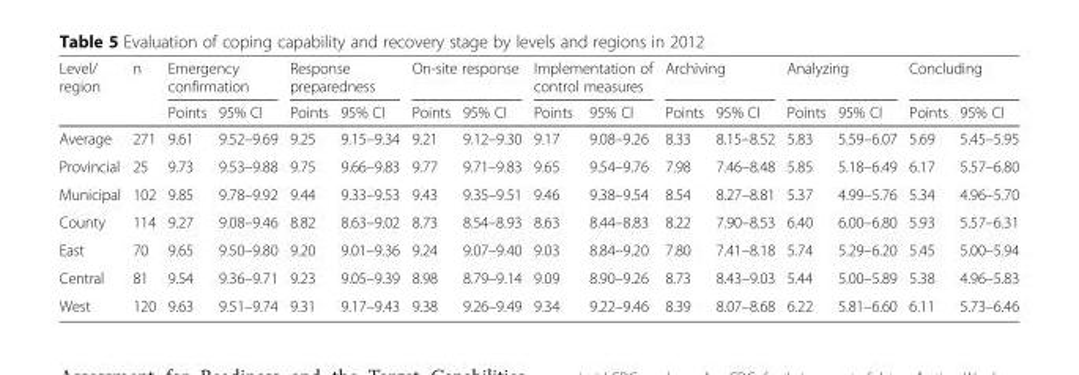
<table><thead><tr><td rowspan="2">Level/ region</td><td rowspan="2">n</td><td colspan="2">Emergency confirmation</td><td colspan="2">Response preparedness</td><td colspan="2">On-site response</td><td colspan="2">Implementation of control measures</td><td colspan="2">Archiving</td><td colspan="2">Analyzing</td><td colspan="2">Concluding</td></tr><tr><td>Points</td><td>95% CI</td><td>Points</td><td>95% CI</td><td>Points</td><td>95% CI</td><td>Points</td><td>95% CI</td><td>Points</td><td>95% CI</td><td>Points</td><td>95% CI</td><td>Points</td><td>95% CI</td></tr></thead><tbody><tr><td>Average</td><td>271</td><td>9.61</td><td>9.52–9.69</td><td>9.25</td><td>9.15–9.34</td><td>9.21</td><td>9.12–9.30</td><td>9.17</td><td>9.08–9.26</td><td>8.33</td><td>8.15–8.52</td><td>5.83</td><td>5.59–6.07</td><td>5.69</td><td>5.45–5.95</td></tr><tr><td>Provincial</td><td>25</td><td>9.73</td><td>9.53–9.88</td><td>9.75</td><td>9.66–9.83</td><td>9.77</td><td>9.71–9.83</td><td>9.65</td><td>9.54–9.76</td><td>7.98</td><td>7.46–8.48</td><td>5.85</td><td>5.18–6.49</td><td>6.17</td><td>5.57–6.80</td></tr><tr><td>Municipal</td><td>102</td><td>9.85</td><td>9.78–9.92</td><td>9.44</td><td>9.33–9.53</td><td>9.43</td><td>9.35–9.51</td><td>9.46</td><td>9.38–9.54</td><td>8.54</td><td>8.27–8.81</td><td>5.37</td><td>4.99–5.76</td><td>5.34</td><td>4.96–5.70</td></tr><tr><td>County</td><td>114</td><td>9.27</td><td>9.08–9.46</td><td>8.82</td><td>8.63–9.02</td><td>8.73</td><td>8.54–8.93</td><td>8.63</td><td>8.44–8.83</td><td>8.22</td><td>7.90–8.53</td><td>6.40</td><td>6.00–6.80</td><td>5.93</td><td>5.57–6.31</td></tr><tr><td>East</td><td>70</td><td>9.65</td><td>9.50–9.80</td><td>9.20</td><td>9.01–9.36</td><td>9.24</td><td>9.07–9.40</td><td>9.03</td><td>8.84–9.20</td><td>7.80</td><td>7.41–8.18</td><td>5.74</td><td>5.29–6.20</td><td>5.45</td><td>5.00–5.94</td></tr><tr><td>Central</td><td>81</td><td>9.54</td><td>9.36–9.71</td><td>9.23</td><td>9.05–9.39</td><td>8.98</td><td>8.79–9.14</td><td>9.09</td><td>8.90–9.26</td><td>8.73</td><td>8.43–9.03</td><td>5.44</td><td>5.00–5.89</td><td>5.38</td><td>4.96–5.83</td></tr><tr><td>West</td><td>120</td><td>9.63</td><td>9.51–9.74</td><td>9.31</td><td>9.17–9.43</td><td>9.38</td><td>9.26–9.49</td><td>9.34</td><td>9.22–9.46</td><td>8.39</td><td>8.07–8.68</td><td>6.22</td><td>5.81–6.60</td><td>6.11</td><td>5.73–6.46</td></tr></tbody></table>